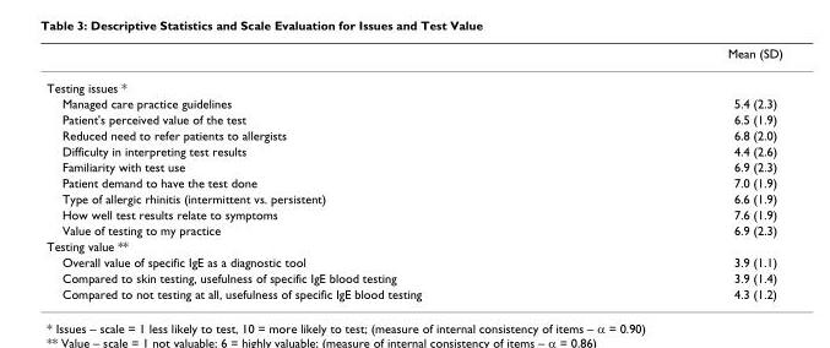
<table><thead><tr><td></td><td>Mean (SD)</td></tr></thead><tbody><tr><td colspan="2">Testing issues *</td></tr><tr><td>Managed care practice guidelines</td><td>5.4 (2.3)</td></tr><tr><td>Patient&#x27;s perceived value of the test</td><td>6.5 (1.9)</td></tr><tr><td>Reduced need to refer patients to allergists</td><td>6.8 (2.0)</td></tr><tr><td>Difficulty in interpreting test results</td><td>4.4 (2.6)</td></tr><tr><td>Familiarity with test use</td><td>6.9 (2.3)</td></tr><tr><td>Patient demand to have the test done</td><td>7.0 (1.9)</td></tr><tr><td>Type of allergic rhinitis (intermittent vs. persistent)</td><td>6.6 (1.9)</td></tr><tr><td>How well test results relate to symptoms</td><td>7.6 (1.9)</td></tr><tr><td>Value of testing to my practice</td><td>6.9 (2.3)</td></tr><tr><td colspan="2">Testing value **</td></tr><tr><td>Overall value of specific IgE as a diagnostic tool</td><td>3.9 (1.1)</td></tr><tr><td>Compared to skin testing, usefulness of specific IgE blood testing</td><td>3.9 (1.4)</td></tr><tr><td>Compared to not testing at all, usefulness of specific IgE blood testing</td><td>4.3 (1.2)</td></tr></tbody></table>